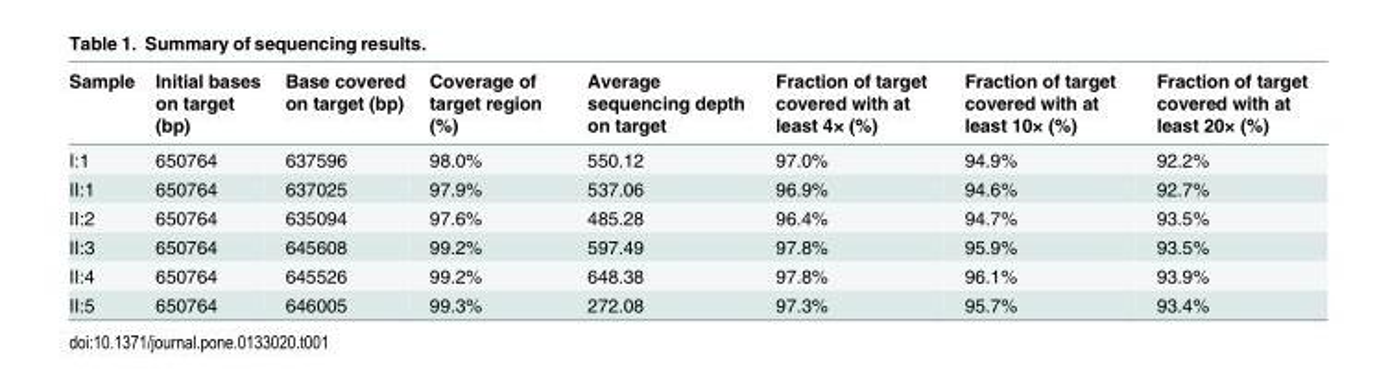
<table><thead><tr><td>Sample</td><td>Initial bases on target (bp)</td><td>Base covered on target (bp)</td><td>Coverage of target region (%)</td><td>Average sequencing depth on target</td><td>Fraction of target covered with at least 4× (%)</td><td>Fraction of target covered with at least 10× (%)</td><td>Fraction of target covered with at least 20× (%)</td></tr></thead><tbody><tr><td>I:1</td><td>650764</td><td>637596</td><td>98.0%</td><td>550.12</td><td>97.0%</td><td>94.9%</td><td>92.2%</td></tr><tr><td>II:1</td><td>650764</td><td>637025</td><td>97.9%</td><td>537.06</td><td>96.9%</td><td>94.6%</td><td>92.7%</td></tr><tr><td>II:2</td><td>650764</td><td>635094</td><td>97.6%</td><td>485.28</td><td>96.4%</td><td>94.7%</td><td>93.5%</td></tr><tr><td>II:3</td><td>650764</td><td>645608</td><td>99.2%</td><td>597.49</td><td>97.8%</td><td>95.9%</td><td>93.5%</td></tr><tr><td>II:4</td><td>650764</td><td>645526</td><td>99.2%</td><td>648.38</td><td>97.8%</td><td>96.1%</td><td>93.9%</td></tr><tr><td>II:5</td><td>650764</td><td>646005</td><td>99.3%</td><td>272.08</td><td>97.3%</td><td>95.7%</td><td>93.4%</td></tr></tbody></table>